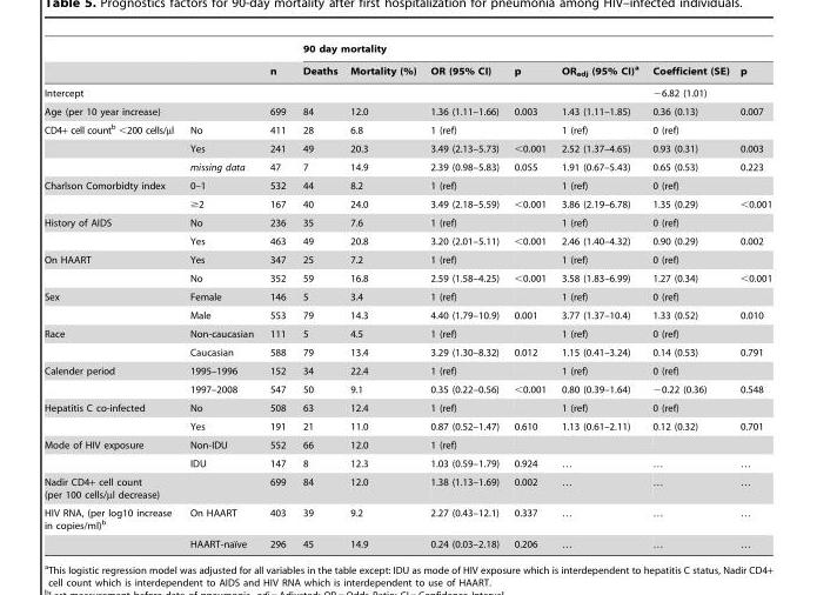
<table><thead><tr><td rowspan="2"></td><td rowspan="2"></td><td rowspan="2">n</td><td colspan="7">90 day mortality</td></tr><tr><td>Deaths</td><td>Mortality (%)</td><td>OR (95% CI)</td><td>p</td><td>OR<sub>adj</sub> (95% CI)<sup>a</sup></td><td>Coefficient (SE)</td><td>p</td></tr></thead><tbody><tr><td>Intercept</td><td></td><td></td><td></td><td></td><td></td><td></td><td></td><td>−6.82 (1.01)</td><td></td></tr><tr><td colspan="2">Age (per 10 year increase)</td><td>699</td><td>84</td><td>12.0</td><td>1.36 (1.11–1.66)</td><td>0.003</td><td>1.43 (1.11–1.85)</td><td>0.36 (0.13)</td><td>0.007</td></tr><tr><td rowspan="3">CD4+ cell count<sup>b</sup> &lt;200 cells/µl</td><td>No</td><td>411</td><td>28</td><td>6.8</td><td>1 (ref)</td><td></td><td>1 (ref)</td><td>0 (ref)</td><td></td></tr><tr><td>Yes</td><td>241</td><td>49</td><td>20.3</td><td>3.49 (2.13–5.73)</td><td>&lt;0.001</td><td>2.52 (1.37–4.65)</td><td>0.93 (0.31)</td><td>0.003</td></tr><tr><td>missing data</td><td>47</td><td>7</td><td>14.9</td><td>2.39 (0.98–5.83)</td><td>0.055</td><td>1.91 (0.67–5.43)</td><td>0.65 (0.53)</td><td>0.223</td></tr><tr><td rowspan="2">Charlson Comorbidty index</td><td>0–1</td><td>532</td><td>44</td><td>8.2</td><td>1 (ref)</td><td></td><td>1 (ref)</td><td>0 (ref)</td><td></td></tr><tr><td>≥2</td><td>167</td><td>40</td><td>24.0</td><td>3.49 (2.18–5.59)</td><td>&lt;0.001</td><td>3.86 (2.19–6.78)</td><td>1.35 (0.29)</td><td>&lt;0.001</td></tr><tr><td rowspan="2">History of AIDS</td><td>No</td><td>236</td><td>35</td><td>7.6</td><td>1 (ref)</td><td></td><td>1 (ref)</td><td>0 (ref)</td><td></td></tr><tr><td>Yes</td><td>463</td><td>49</td><td>20.8</td><td>3.20 (2.01–5.11)</td><td>&lt;0.001</td><td>2.46 (1.40–4.32)</td><td>0.90 (0.29)</td><td>0.002</td></tr><tr><td rowspan="2">On HAART</td><td>Yes</td><td>347</td><td>25</td><td>7.2</td><td>1 (ref)</td><td></td><td>1 (ref)</td><td>0 (ref)</td><td></td></tr><tr><td>No</td><td>352</td><td>59</td><td>16.8</td><td>2.59 (1.58–4.25)</td><td>&lt;0.001</td><td>3.58 (1.83–6.99)</td><td>1.27 (0.34)</td><td>&lt;0.001</td></tr><tr><td rowspan="2">Sex</td><td>Female</td><td>146</td><td>5</td><td>3.4</td><td>1 (ref)</td><td></td><td>1 (ref)</td><td>0 (ref)</td><td></td></tr><tr><td>Male</td><td>553</td><td>79</td><td>14.3</td><td>4.40 (1.79–10.9)</td><td>0.001</td><td>3.77 (1.37–10.4)</td><td>1.33 (0.52)</td><td>0.010</td></tr><tr><td rowspan="2">Race</td><td>Non-caucasian</td><td>111</td><td>5</td><td>4.5</td><td>1 (ref)</td><td></td><td>1 (ref)</td><td>0 (ref)</td><td></td></tr><tr><td>Caucasian</td><td>588</td><td>79</td><td>13.4</td><td>3.29 (1.30–8.32)</td><td>0.012</td><td>1.15 (0.41–3.24)</td><td>0.14 (0.53)</td><td>0.791</td></tr><tr><td rowspan="2">Calender period</td><td>1995–1996</td><td>152</td><td>34</td><td>22.4</td><td>1 (ref)</td><td></td><td>1 (ref)</td><td>0 (ref)</td><td></td></tr><tr><td>1997–2008</td><td>547</td><td>50</td><td>9.1</td><td>0.35 (0.22–0.56)</td><td>&lt;0.001</td><td>0.80 (0.39–1.64)</td><td>−0.22 (0.36)</td><td>0.548</td></tr><tr><td rowspan="2">Hepatitis C co-infected</td><td>No</td><td>508</td><td>63</td><td>12.4</td><td>1 (ref)</td><td></td><td>1 (ref)</td><td>0 (ref)</td><td></td></tr><tr><td>Yes</td><td>191</td><td>21</td><td>11.0</td><td>0.87 (0.52–1.47)</td><td>0.610</td><td>1.13 (0.61–2.11)</td><td>0.12 (0.32)</td><td>0.701</td></tr><tr><td rowspan="2">Mode of HIV exposure</td><td>Non-IDU</td><td>552</td><td>66</td><td>12.0</td><td>1 (ref)</td><td></td><td></td><td></td><td></td></tr><tr><td>IDU</td><td>147</td><td>8</td><td>12.3</td><td>1.03 (0.59–1.79)</td><td>0.924</td><td>…</td><td>…</td><td>…</td></tr><tr><td colspan="2">Nadir CD4+ cell count (per 100 cells/µl decrease)</td><td>699</td><td>84</td><td>12.0</td><td>1.38 (1.13–1.69)</td><td>0.002</td><td>…</td><td>…</td><td>…</td></tr><tr><td rowspan="2">HIV RNA, (per log10 increase in copies/ml)<sup>b</sup></td><td>On HAART</td><td>403</td><td>39</td><td>9.2</td><td>2.27 (0.43–12.1)</td><td>0.337</td><td>…</td><td>…</td><td>…</td></tr><tr><td>HAART-naı¨ve</td><td>296</td><td>45</td><td>14.9</td><td>0.24 (0.03–2.18)</td><td>0.206</td><td>…</td><td>…</td><td>…</td></tr></tbody></table>